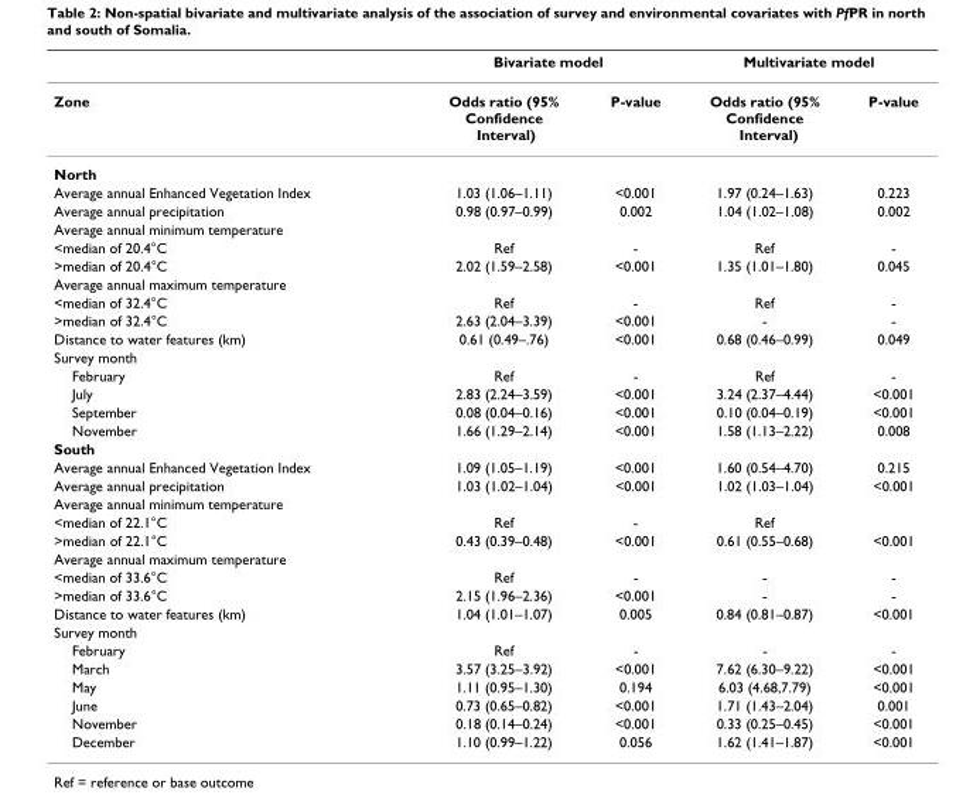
<table><thead><tr><td rowspan="2">Zone</td><td colspan="2">Bivariate model</td><td colspan="2">Multivariate model</td></tr><tr><td>Odds ratio (95% Confidence Interval)</td><td>P-value</td><td>Odds ratio (95% Confidence Interval)</td><td>P-value</td></tr></thead><tbody><tr><td colspan="5">North</td></tr><tr><td>Average annual Enhanced Vegetation Index</td><td>1.03 (1.06–1.11)</td><td>&lt;0.001</td><td>1.97 (0.24–1.63)</td><td>0.223</td></tr><tr><td>Average annual precipitation</td><td>0.98 (0.97–0.99)</td><td>0.002</td><td>1.04 (1.02–1.08)</td><td>0.002</td></tr><tr><td colspan="5">Average annual minimum temperature</td></tr><tr><td>&lt;median of 20.4°C</td><td>Ref</td><td>-</td><td>Ref</td><td>-</td></tr><tr><td>&gt;median of 20.4°C</td><td>2.02 (1.59–2.58)</td><td>&lt;0.001</td><td>1.35 (1.01–1.80)</td><td>0.045</td></tr><tr><td colspan="5">Average annual maximum temperature</td></tr><tr><td>&lt;median of 32.4°C</td><td>Ref</td><td>-</td><td>Ref</td><td>-</td></tr><tr><td>&gt;median of 32.4°C</td><td>2.63 (2.04–3.39)</td><td>&lt;0.001</td><td>-</td><td>-</td></tr><tr><td>Distance to water features (km)</td><td>0.61 (0.49–.76)</td><td>&lt;0.001</td><td>0.68 (0.46–0.99)</td><td>0.049</td></tr><tr><td colspan="5">Survey month</td></tr><tr><td>February</td><td>Ref</td><td>-</td><td>Ref</td><td>-</td></tr><tr><td>July</td><td>2.83 (2.24–3.59)</td><td>&lt;0.001</td><td>3.24 (2.37–4.44)</td><td>&lt;0.001</td></tr><tr><td>September</td><td>0.08 (0.04–0.16)</td><td>&lt;0.001</td><td>0.10 (0.04–0.19)</td><td>&lt;0.001</td></tr><tr><td>November</td><td>1.66 (1.29–2.14)</td><td>&lt;0.001</td><td>1.58 (1.13–2.22)</td><td>0.008</td></tr><tr><td colspan="5">South</td></tr><tr><td>Average annual Enhanced Vegetation Index</td><td>1.09 (1.05–1.19)</td><td>&lt;0.001</td><td>1.60 (0.54–4.70)</td><td>0.215</td></tr><tr><td>Average annual precipitation</td><td>1.03 (1.02–1.04)</td><td>&lt;0.001</td><td>1.02 (1.03–1.04)</td><td>&lt;0.001</td></tr><tr><td colspan="5">Average annual minimum temperature</td></tr><tr><td>&lt;median of 22.1°C</td><td>Ref</td><td>-</td><td>Ref</td><td></td></tr><tr><td>&gt;median of 22.1°C</td><td>0.43 (0.39–0.48)</td><td>&lt;0.001</td><td>0.61 (0.55–0.68)</td><td>&lt;0.001</td></tr><tr><td colspan="5">Average annual maximum temperature</td></tr><tr><td>&lt;median of 33.6°C</td><td>Ref</td><td>-</td><td>-</td><td>-</td></tr><tr><td>&gt;median of 33.6°C</td><td>2.15 (1.96–2.36)</td><td>&lt;0.001</td><td>-</td><td>-</td></tr><tr><td>Distance to water features (km)</td><td>1.04 (1.01–1.07)</td><td>0.005</td><td>0.84 (0.81–0.87)</td><td>&lt;0.001</td></tr><tr><td colspan="5">Survey month</td></tr><tr><td>February</td><td>Ref</td><td>-</td><td>-</td><td>-</td></tr><tr><td>March</td><td>3.57 (3.25–3.92)</td><td>&lt;0.001</td><td>7.62 (6.30–9.22)</td><td>&lt;0.001</td></tr><tr><td>May</td><td>1.11 (0.95–1.30)</td><td>0.194</td><td>6.03 (4.68,7.79)</td><td>&lt;0.001</td></tr><tr><td>June</td><td>0.73 (0.65–0.82)</td><td>&lt;0.001</td><td>1.71 (1.43–2.04)</td><td>0.001</td></tr><tr><td>November</td><td>0.18 (0.14–0.24)</td><td>&lt;0.001</td><td>0.33 (0.25–0.45)</td><td>&lt;0.001</td></tr><tr><td>December</td><td>1.10 (0.99–1.22)</td><td>0.056</td><td>1.62 (1.41–1.87)</td><td>&lt;0.001</td></tr></tbody></table>